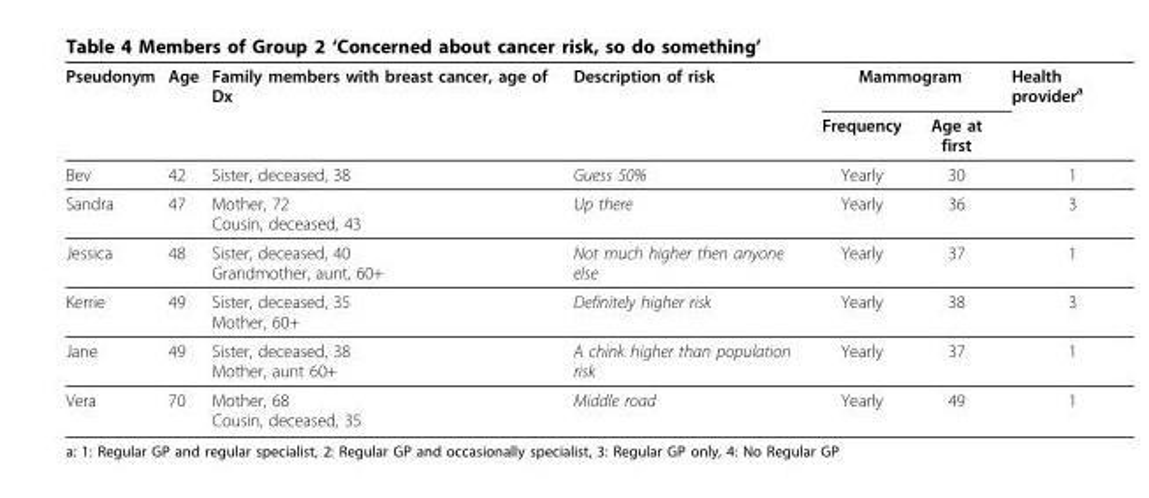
<table><thead><tr><td rowspan="2">Pseudonym</td><td rowspan="2">Age</td><td rowspan="2">Family members with breast cancer, age of Dx</td><td rowspan="2">Description of risk</td><td colspan="2">Mammogram</td><td rowspan="2">Health provider<sup>a</sup></td></tr><tr><td>Frequency</td><td>Age at first</td></tr></thead><tbody><tr><td>Bev</td><td>42</td><td>Sister, deceased, 38</td><td>Guess 50%</td><td>Yearly</td><td>30</td><td>1</td></tr><tr><td>Sandra</td><td>47</td><td>Mother, 72 Cousin, deceased, 43</td><td>Up there</td><td>Yearly</td><td>36</td><td>3</td></tr><tr><td>Jessica</td><td>48</td><td>Sister, deceased, 40 Grandmother, aunt, 60+</td><td>Not much higher then anyone else</td><td>Yearly</td><td>37</td><td>1</td></tr><tr><td>Kerrie</td><td>49</td><td>Sister, deceased, 35 Mother, 60+</td><td>Definitely higher risk</td><td>Yearly</td><td>38</td><td>3</td></tr><tr><td>Jane</td><td>49</td><td>Sister, deceased, 38 Mother, aunt 60+</td><td>A chink higher than population risk</td><td>Yearly</td><td>37</td><td>1</td></tr><tr><td>Vera</td><td>70</td><td>Mother, 68 Cousin, deceased, 35</td><td>Middle road</td><td>Yearly</td><td>49</td><td>1</td></tr></tbody></table>